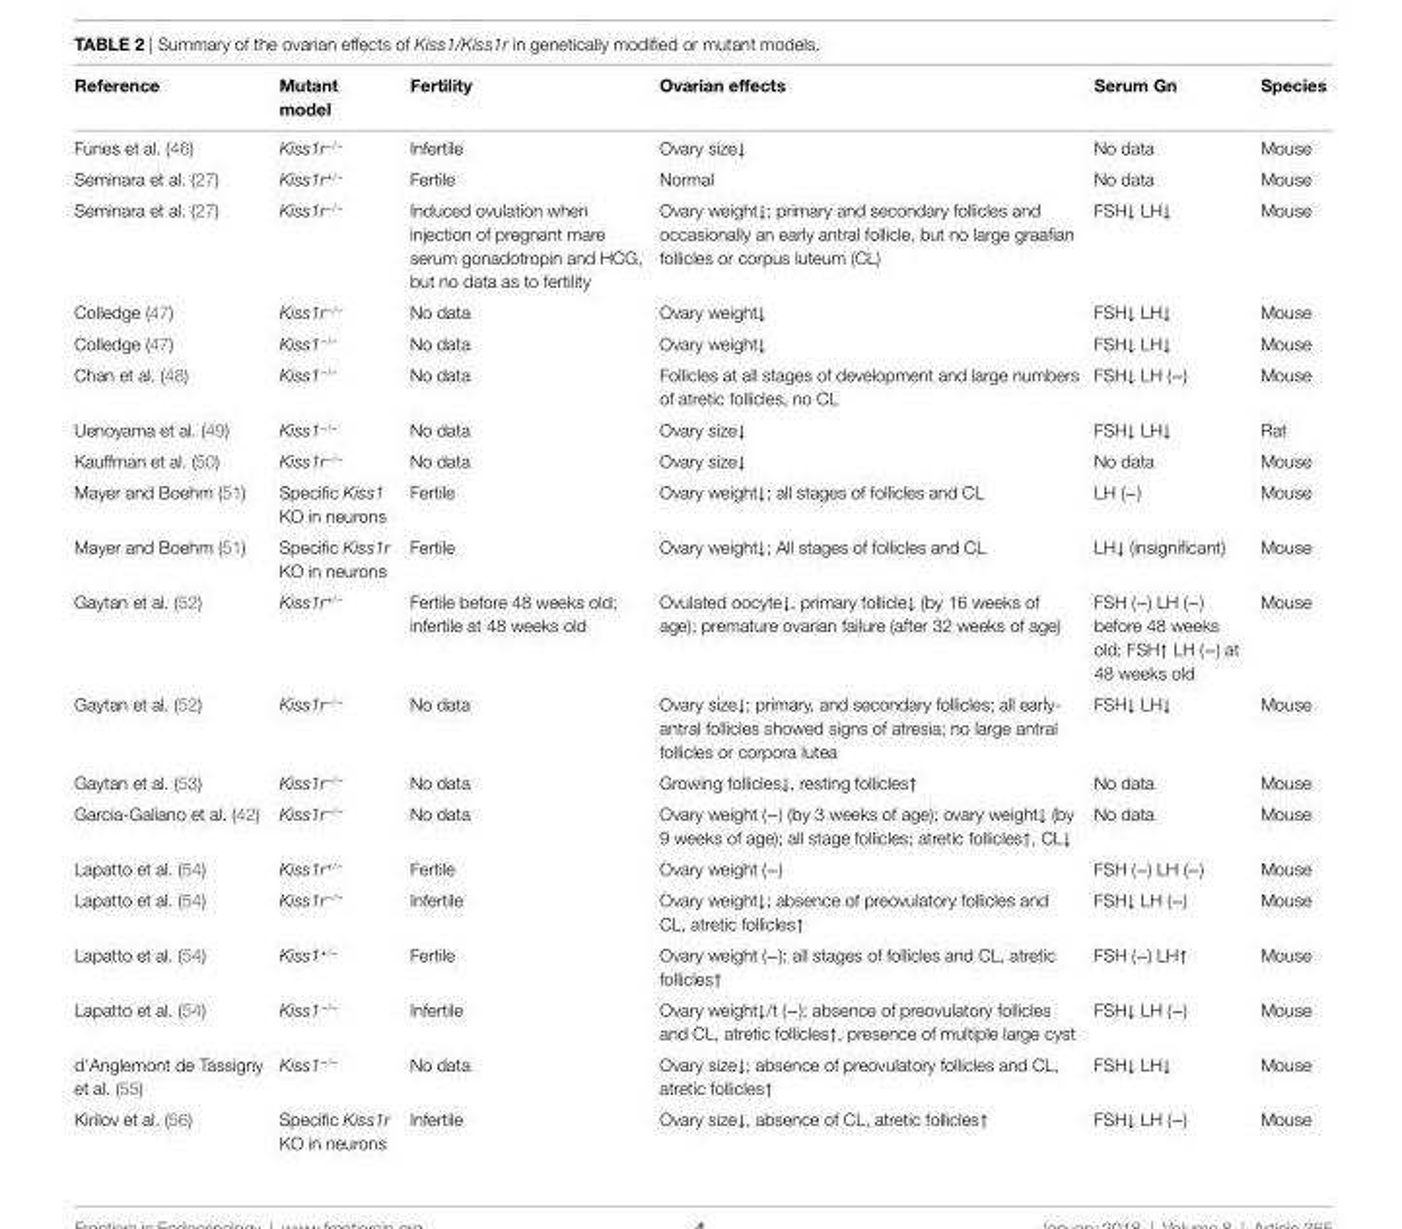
<table><thead><tr><td>Reference</td><td>Mutant model</td><td>Fertility</td><td>Ovarian effects</td><td>Serum gn</td><td>Species</td></tr></thead><tbody><tr><td>Funes et al. (46)</td><td>Kiss1r<sup>−/−</sup></td><td>Infertile</td><td>Ovary size↓</td><td>No data</td><td>Mouse</td></tr><tr><td>Seminara et al. (27)</td><td>Kiss1r<sup>+/−</sup></td><td>Fertile</td><td>Normal</td><td>No data</td><td>Mouse</td></tr><tr><td>Seminara et al. (27)</td><td>Kiss1r<sup>−/−</sup></td><td>Induced ovulation when injection of pregnant mare serum gonadotropin and HCG, but no data as to fertility</td><td>Ovary weight↓; primary and secondary follicles and occasionally an early antral follicle, but no large graafian follicles or corpus luteum (CL)</td><td>FSH↓ LH↓</td><td>Mouse</td></tr><tr><td>Colledge (47)</td><td>Kiss1r<sup>−/−</sup></td><td>No data</td><td>Ovary weight↓</td><td>FSH↓ LH↓</td><td>Mouse</td></tr><tr><td>Colledge (47)</td><td>Kiss1<sup>−/−</sup></td><td>No data</td><td>Ovary weight↓</td><td>FSH↓ LH↓</td><td>Mouse</td></tr><tr><td>Chan et al. (48)</td><td>Kiss1<sup>−/−</sup></td><td>No data</td><td>Follicles at all stages of development and large numbers of atretic follicles, no CL</td><td>FSH↓ LH (−)</td><td>Mouse</td></tr><tr><td>Uenoyama et al. (49)</td><td>Kiss1<sup>−/−</sup></td><td>No data</td><td>Ovary size↓</td><td>FSH↓ LH↓</td><td>Rat</td></tr><tr><td>Kauffman et al. (50)</td><td>Kiss1r<sup>−/−</sup></td><td>No data</td><td>Ovary size↓</td><td>No data</td><td>Mouse</td></tr><tr><td>Mayer and Boehm (51)</td><td>Specific Kiss1 KO in neurons</td><td>Fertile</td><td>Ovary weight↓; all stages of follicles and CL</td><td>LH (−)</td><td>Mouse</td></tr><tr><td>Mayer and Boehm (51)</td><td>Specific Kiss1r KO in neurons</td><td>Fertile</td><td>Ovary weight↓; All stages of follicles and CL</td><td>LH↓ (insignificant)</td><td>Mouse</td></tr><tr><td>Gaytan et al. (52)</td><td>Kiss1r<sup>+/−</sup></td><td>Fertile before 48 weeks old; infertile at 48 weeks old</td><td>Ovulated oocyte↓, primary follicle↓ (by 16 weeks of age); premature ovarian failure (after 32 weeks of age)</td><td>FSH (−) LH (−) before 48 weeks old; FSH↑ LH (−) at 48 weeks old</td><td>Mouse</td></tr><tr><td>Gaytan et al. (52)</td><td>Kiss1r<sup>−/−</sup></td><td>No data</td><td>Ovary size↓; primary, and secondary follicles; all early- antral follicles showed signs of atresia; no large antral follicles or corpora lutea</td><td>FSH↓ LH↓</td><td>Mouse</td></tr><tr><td>Gaytan et al. (53)</td><td>Kiss1r<sup>−/−</sup></td><td>No data</td><td>Growing follicles↓, resting follicles↑</td><td>No data</td><td>Mouse</td></tr><tr><td>Garcia-Galiano et al. (42)</td><td>Kiss1r<sup>−/−</sup></td><td>No data</td><td>Ovary weight (−) (by 3 weeks of age); ovary weight↓ (by 9 weeks of age); all stage follicles; atretic follicles↑, CL↓</td><td>No data</td><td>Mouse</td></tr><tr><td>Lapatto et al. (54)</td><td>Kiss1r<sup>+/−</sup></td><td>Fertile</td><td>Ovary weight (−)</td><td>FSH (−) LH (−)</td><td>Mouse</td></tr><tr><td>Lapatto et al. (54)</td><td>Kiss1r<sup>−/−</sup></td><td>Infertile</td><td>Ovary weight↓; absence of preovulatory follicles and CL, atretic follicles↑</td><td>FSH↓ LH (−)</td><td>Mouse</td></tr><tr><td>Lapatto et al. (54)</td><td>Kiss1<sup>+/−</sup></td><td>Fertile</td><td>Ovary weight (−); all stages of follicles and CL, atretic follicles↑</td><td>FSH (−) LH↑</td><td>Mouse</td></tr><tr><td>Lapatto et al. (54)</td><td>Kiss1<sup>−/−</sup></td><td>Infertile</td><td>Ovary weight↓/t (−); absence of preovulatory follicles and CL, atretic follicles↑, presence of multiple large cyst</td><td>FSH↓ LH (−)</td><td>Mouse</td></tr><tr><td>d’Anglemont de Tassigny et al. (55)</td><td>Kiss1<sup>−/−</sup></td><td>No data</td><td>Ovary size↓; absence of preovulatory follicles and CL, atretic follicles↑</td><td>FSH↓ LH↓</td><td>Mouse</td></tr><tr><td>Kirilov et al. (56)</td><td>Specific Kiss1r KO in neurons</td><td>Infertile</td><td>Ovary size↓, absence of CL, atretic follicles↑</td><td>FSH↓ LH (−)</td><td>Mouse</td></tr></tbody></table>